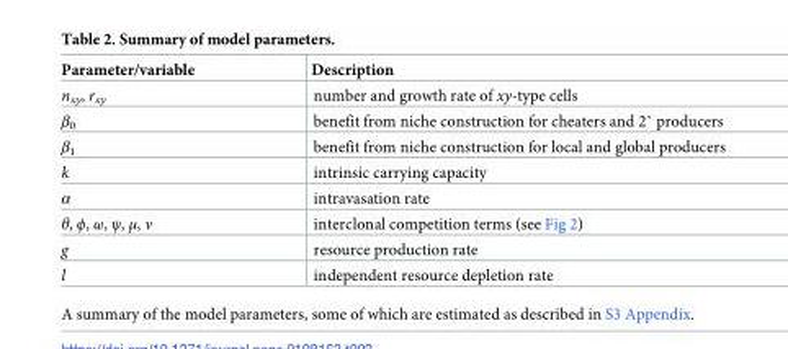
<table><thead><tr><td>Parameter/variable</td><td>Description</td></tr></thead><tbody><tr><td>n<sub>xy</sub>, r<sub>xy</sub></td><td>number and growth rate of xy-type cells</td></tr><tr><td>β<sub>0</sub></td><td>benefit from niche construction for cheaters and 2˚ producers</td></tr><tr><td>β<sub>1</sub></td><td>benefit from niche construction for local and global producers</td></tr><tr><td>k</td><td>intrinsic carrying capacity</td></tr><tr><td>α</td><td>intravasation rate</td></tr><tr><td>θ, ϕ, ω, ψ, μ, ν</td><td>interclonal competition terms (see Fig 2)</td></tr><tr><td>g</td><td>resource production rate</td></tr><tr><td>l</td><td>independent resource depletion rate</td></tr></tbody></table>